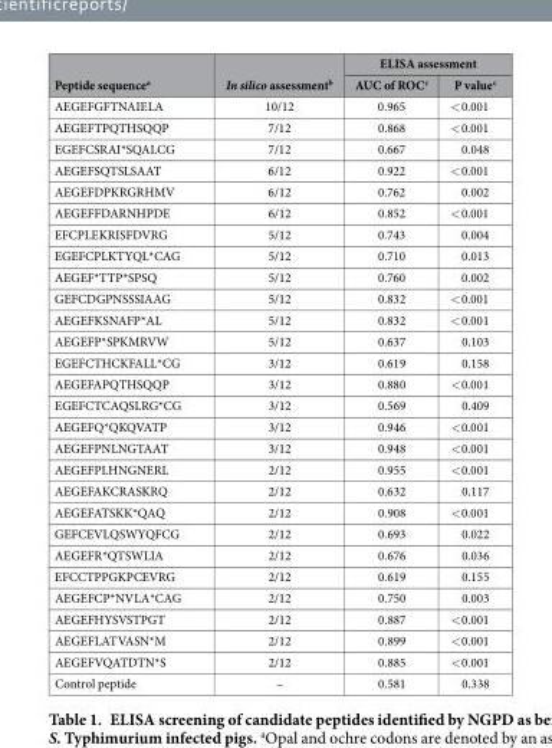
<table><thead><tr><td rowspan="2">Peptide sequence<sup>a</sup></td><td rowspan="2">In silico assessment<sup>b</sup></td><td colspan="2">ELISA assessment</td></tr><tr><td>AUC of ROC<sup>c</sup></td><td>P value<sup>c</sup></td></tr></thead><tbody><tr><td>AEGEFGFTNAIELA</td><td>10/12</td><td>0.965</td><td>&lt; 0.001</td></tr><tr><td>AEGEFTPQTHSQQP</td><td>7/12</td><td>0.868</td><td>&lt; 0.001</td></tr><tr><td>EGEFCSRAI*SQALCG</td><td>7/12</td><td>0.667</td><td>0.048</td></tr><tr><td>AEGEFSQTSLSAAT</td><td>6/12</td><td>0.922</td><td>&lt; 0.001</td></tr><tr><td>AEGEFDPKRGRHMV</td><td>6/12</td><td>0.762</td><td>0.002</td></tr><tr><td>AEGEFFDARNHPDE</td><td>6/12</td><td>0.852</td><td>&lt; 0.001</td></tr><tr><td>EFCPLEKRISFDVRG</td><td>5/12</td><td>0.743</td><td>0.004</td></tr><tr><td>EGEFCPLKTYQL*CAG</td><td>5/12</td><td>0.710</td><td>0.013</td></tr><tr><td>AEGEF*TTP*SPSQ</td><td>5/12</td><td>0.760</td><td>0.002</td></tr><tr><td>GEFCDGPNSSSIAAG</td><td>5/12</td><td>0.832</td><td>&lt; 0.001</td></tr><tr><td>AEGEFKSNAFP*AL</td><td>5/12</td><td>0.832</td><td>&lt; 0.001</td></tr><tr><td>AEGEFP*SPKMRVW</td><td>5/12</td><td>0.637</td><td>0.103</td></tr><tr><td>EGEFCTHCKFALL*CG</td><td>3/12</td><td>0.619</td><td>0.158</td></tr><tr><td>AEGEFAPQTHSQQP</td><td>3/12</td><td>0.880</td><td>&lt; 0.001</td></tr><tr><td>EGEFCTCAQSLRG*CG</td><td>3/12</td><td>0.569</td><td>0.409</td></tr><tr><td>AEGEFQ*QKQVATP</td><td>3/12</td><td>0.946</td><td>&lt; 0.001</td></tr><tr><td>AEGEFPNLNGTAAT</td><td>3/12</td><td>0.948</td><td>&lt; 0.001</td></tr><tr><td>AEGEFPLHNGNERL</td><td>2/12</td><td>0.955</td><td>&lt; 0.001</td></tr><tr><td>AEGEFAKCRASKRQ</td><td>2/12</td><td>0.632</td><td>0.117</td></tr><tr><td>AEGEFATSKK*QAQ</td><td>2/12</td><td>0.908</td><td>&lt; 0.001</td></tr><tr><td>GEFCEVLQSWYQFCG</td><td>2/12</td><td>0.693</td><td>0.022</td></tr><tr><td>AEGEFR*QTSWLIA</td><td>2/12</td><td>0.676</td><td>0.036</td></tr><tr><td>EFCCTPPGKPCEVRG</td><td>2/12</td><td>0.619</td><td>0.155</td></tr><tr><td>AEGEFCP*NVLA*CAG</td><td>2/12</td><td>0.750</td><td>0.003</td></tr><tr><td>AEGEFHYSVSTPGT</td><td>2/12</td><td>0.887</td><td>&lt; 0.001</td></tr><tr><td>AEGEFLATVASN*M</td><td>2/12</td><td>0.899</td><td>&lt; 0.001</td></tr><tr><td>AEGEFVQATDTN*S</td><td>2/12</td><td>0.885</td><td>&lt; 0.001</td></tr><tr><td>Control peptide</td><td>–</td><td>0.581</td><td>0.338</td></tr></tbody></table>